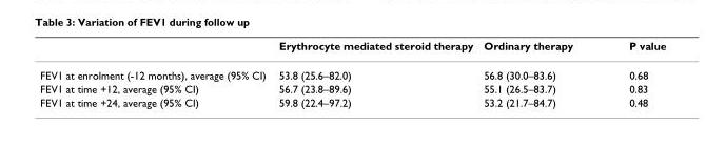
<table><thead><tr><td></td><td>Erythrocyte mediated steroid therapy</td><td>Ordinary therapy</td><td>P value</td></tr></thead><tbody><tr><td>FEV1 at enrolment (-12 months), average (95% CI)</td><td>53.8 (25.6–82.0)</td><td>56.8 (30.0–83.6)</td><td>0.68</td></tr><tr><td>FEV1 at time +12, average (95% CI)</td><td>56.7 (23.8–89.6)</td><td>55.1 (26.5–83.7)</td><td>0.83</td></tr><tr><td>FEV1 at time +24, average (95% CI)</td><td>59.8 (22.4–97.2)</td><td>53.2 (21.7–84.7)</td><td>0.48</td></tr></tbody></table>